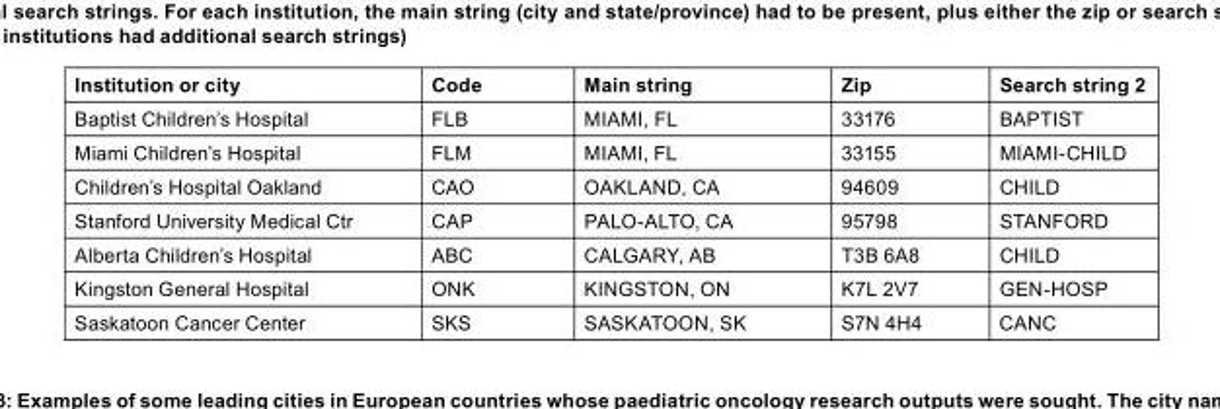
<table><thead><tr><td>Institution or city</td><td>Code</td><td>Main string</td><td>Zip</td><td>Search string 2</td></tr></thead><tbody><tr><td>Baptist Children’s Hospital</td><td>FLB</td><td>MIAMI, FL</td><td>33176</td><td>BAPTIST</td></tr><tr><td>Miami Children’s Hospital</td><td>FLM</td><td>MIAMI, FL</td><td>33155</td><td>MIAMI-CHILD</td></tr><tr><td>Children’s Hospital Oakland</td><td>CAO</td><td>OAKLAND, CA</td><td>94609</td><td>CHILD</td></tr><tr><td>Stanford University Medical Ctr</td><td>CAP</td><td>PALO-ALTO, CA</td><td>95798</td><td>STANFORD</td></tr><tr><td>Alberta Children’s Hospital</td><td>ABC</td><td>CALGARY, AB</td><td>T3B 6A8</td><td>CHILD</td></tr><tr><td>Kingston General Hospital</td><td>ONK</td><td>KINGSTON, ON</td><td>K7L 2V7</td><td>GEN-HOSP</td></tr><tr><td>Saskatoon Cancer Center</td><td>SKS</td><td>SASKATOON, SK</td><td>S7N 4H4</td><td>CANC</td></tr></tbody></table>